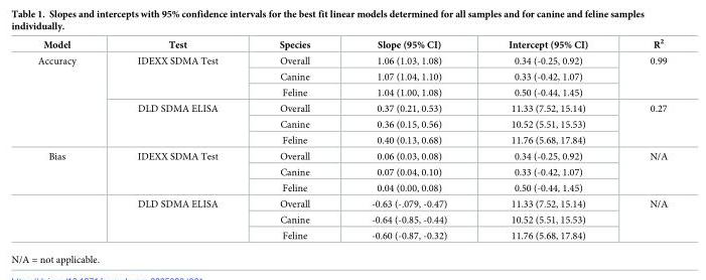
<table><thead><tr><td>Model</td><td>Test</td><td>Species</td><td>Slope (95% CI)</td><td>Intercept (95% CI)</td><td>R<sup>2</sup></td></tr></thead><tbody><tr><td rowspan="6">Accuracy</td><td rowspan="3">IDEXX SDMA Test</td><td>Overall</td><td>1.06 (1.03, 1.08)</td><td>0.34 (-0.25, 0.92)</td><td rowspan="3">0.99</td></tr><tr><td>Canine</td><td>1.07 (1.04, 1.10)</td><td>0.33 (-0.42, 1.07)</td></tr><tr><td>Feline</td><td>1.04 (1.00, 1.08)</td><td>0.50 (-0.44, 1.45)</td></tr><tr><td rowspan="3">DLD SDMA ELISA</td><td>Overall</td><td>0.37 (0.21, 0.53)</td><td>11.33 (7.52, 15.14)</td><td rowspan="3">0.27</td></tr><tr><td>Canine</td><td>0.36 (0.15, 0.56)</td><td>10.52 (5.51, 15.53)</td></tr><tr><td>Feline</td><td>0.40 (0.13, 0.68)</td><td>11.76 (5.68, 17.84)</td></tr><tr><td rowspan="6">Bias</td><td rowspan="3">IDEXX SDMA Test</td><td>Overall</td><td>0.06 (0.03, 0.08)</td><td>0.34 (-0.25, 0.92)</td><td rowspan="3">N/A</td></tr><tr><td>Canine</td><td>0.07 (0.04, 0.10)</td><td>0.33 (-0.42, 1.07)</td></tr><tr><td>Feline</td><td>0.04 (0.00, 0.08)</td><td>0.50 (-0.44, 1.45)</td></tr><tr><td rowspan="3">DLD SDMA ELISA</td><td>Overall</td><td>-0.63 (-.079, -0.47)</td><td>11.33 (7.52, 15.14)</td><td rowspan="3">N/A</td></tr><tr><td>Canine</td><td>-0.64 (-0.85, -0.44)</td><td>10.52 (5.51, 15.53)</td></tr><tr><td>Feline</td><td>-0.60 (-0.87, -0.32)</td><td>11.76 (5.68, 17.84)</td></tr></tbody></table>